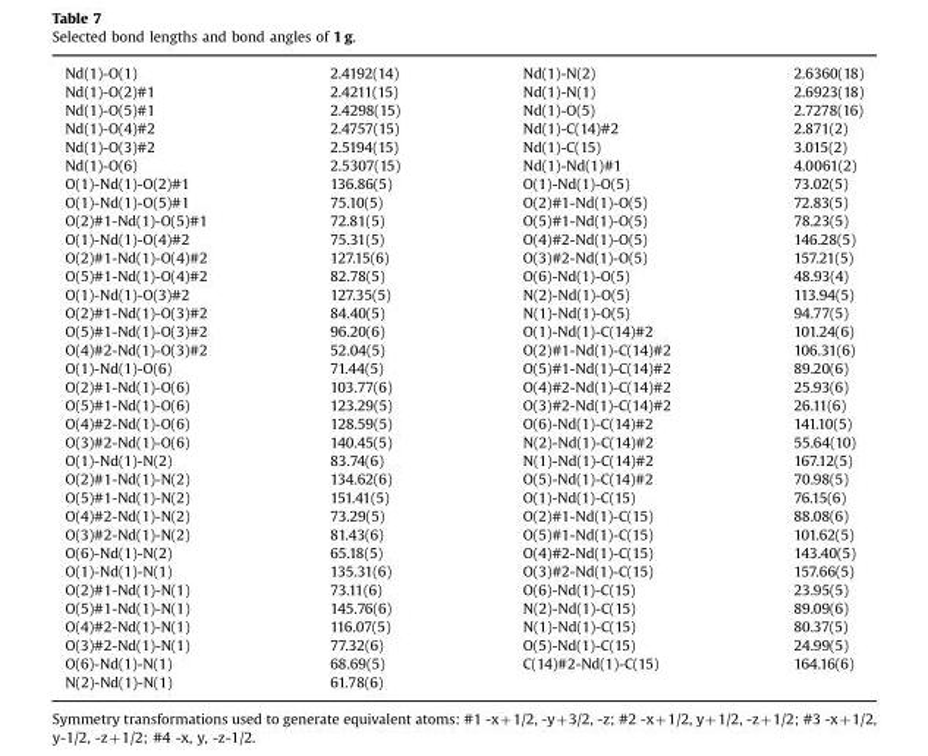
<table><tbody><tr><td>Nd(1)-O(1)</td><td>2.4192(14)</td><td>Nd(1)-N(2)</td><td>2.6360(18)</td></tr><tr><td>Nd(1)-O(2)#1</td><td>2.4211(15)</td><td>Nd(1)-N(1)</td><td>2.6923(18)</td></tr><tr><td>Nd(1)-O(5)#1</td><td>2.4298(15)</td><td>Nd(1)-O(5)</td><td>2.7278(16)</td></tr><tr><td>Nd(1)-O(4)#2</td><td>2.4757(15)</td><td>Nd(1)-C(14)#2</td><td>2.871(2)</td></tr><tr><td>Nd(1)-O(3)#2</td><td>2.5194(15)</td><td>Nd(1)-C(15)</td><td>3.015(2)</td></tr><tr><td>Nd(1)-O(6)</td><td>2.5307(15)</td><td>Nd(1)-Nd(1)#1</td><td>4.0061(2)</td></tr><tr><td>O(1)-Nd(1)-O(2)#1</td><td>136.86(5)</td><td>O(1)-Nd(1)-O(5)</td><td>73.02(5)</td></tr><tr><td>O(1)-Nd(1)-O(5)#1</td><td>75.10(5)</td><td>O(2)#1-Nd(1)-O(5)</td><td>72.83(5)</td></tr><tr><td>O(2)#1-Nd(1)-O(5)#1</td><td>72.81(5)</td><td>O(5)#1-Nd(1)-O(5)</td><td>78.23(5)</td></tr><tr><td>O(1)-Nd(1)-O(4)#2</td><td>75.31(5)</td><td>O(4)#2-Nd(1)-O(5)</td><td>146.28(5)</td></tr><tr><td>O(2)#1-Nd(1)-O(4)#2</td><td>127.15(6)</td><td>O(3)#2-Nd(1)-O(5)</td><td>157.21(5)</td></tr><tr><td>O(5)#1-Nd(1)-O(4)#2</td><td>82.78(5)</td><td>O(6)-Nd(1)-O(5)</td><td>48.93(4)</td></tr><tr><td>O(1)-Nd(1)-O(3)#2</td><td>127.35(5)</td><td>N(2)-Nd(1)-O(5)</td><td>113.94(5)</td></tr><tr><td>O(2)#1-Nd(1)-O(3)#2</td><td>84.40(5)</td><td>N(1)-Nd(1)-O(5)</td><td>94.77(5)</td></tr><tr><td>O(5)#1-Nd(1)-O(3)#2</td><td>96.20(6)</td><td>O(1)-Nd(1)-C(14)#2</td><td>101.24(6)</td></tr><tr><td>O(4)#2-Nd(1)-O(3)#2</td><td>52.04(5)</td><td>O(2)#1-Nd(1)-C(14)#2</td><td>106.31(6)</td></tr><tr><td>O(1)-Nd(1)-O(6)</td><td>71.44(5)</td><td>O(5)#1-Nd(1)-C(14)#2</td><td>89.20(6)</td></tr><tr><td>O(2)#1-Nd(1)-O(6)</td><td>103.77(6)</td><td>O(4)#2-Nd(1)-C(14)#2</td><td>25.93(6)</td></tr><tr><td>O(5)#1-Nd(1)-O(6)</td><td>123.29(5)</td><td>O(3)#2-Nd(1)-C(14)#2</td><td>26.11(6)</td></tr><tr><td>O(4)#2-Nd(1)-O(6)</td><td>128.59(5)</td><td>O(6)-Nd(1)-C(14)#2</td><td>141.10(5)</td></tr><tr><td>O(3)#2-Nd(1)-O(6)</td><td>140.45(5)</td><td>N(2)-Nd(1)-C(14)#2</td><td>55.64(10)</td></tr><tr><td>O(1)-Nd(1)-N(2)</td><td>83.74(6)</td><td>N(1)-Nd(1)-C(14)#2</td><td>167.12(5)</td></tr><tr><td>O(2)#1-Nd(1)-N(2)</td><td>134.62(6)</td><td>O(5)-Nd(1)-C(14)#2</td><td>70.98(5)</td></tr><tr><td>O(5)#1-Nd(1)-N(2)</td><td>151.41(5)</td><td>O(1)-Nd(1)-C(15)</td><td>76.15(6)</td></tr><tr><td>O(4)#2-Nd(1)-N(2)</td><td>73.29(5)</td><td>O(2)#1-Nd(1)-C(15)</td><td>88.08(6)</td></tr><tr><td>O(3)#2-Nd(1)-N(2)</td><td>81.43(6)</td><td>O(5)#1-Nd(1)-C(15)</td><td>101.62(5)</td></tr><tr><td>O(6)-Nd(1)-N(2)</td><td>65.18(5)</td><td>O(4)#2-Nd(1)-C(15)</td><td>143.40(5)</td></tr><tr><td>O(1)-Nd(1)-N(1)</td><td>135.31(6)</td><td>O(3)#2-Nd(1)-C(15)</td><td>157.66(5)</td></tr><tr><td>O(2)#1-Nd(1)-N(1)</td><td>73.11(6)</td><td>O(6)-Nd(1)-C(15)</td><td>23.95(5)</td></tr><tr><td>O(5)#1-Nd(1)-N(1)</td><td>145.76(6)</td><td>N(2)-Nd(1)-C(15)</td><td>89.09(6)</td></tr><tr><td>O(4)#2-Nd(1)-N(1)</td><td>116.07(5)</td><td>N(1)-Nd(1)-C(15)</td><td>80.37(5)</td></tr><tr><td>O(3)#2-Nd(1)-N(1)</td><td>77.32(6)</td><td>O(5)-Nd(1)-C(15)</td><td>24.99(5)</td></tr><tr><td>O(6)-Nd(1)-N(1)</td><td>68.69(5)</td><td>C(14)#2-Nd(1)-C(15)</td><td>164.16(6)</td></tr><tr><td>N(2)-Nd(1)-N(1)</td><td>61.78(6)</td><td></td><td></td></tr></tbody></table>